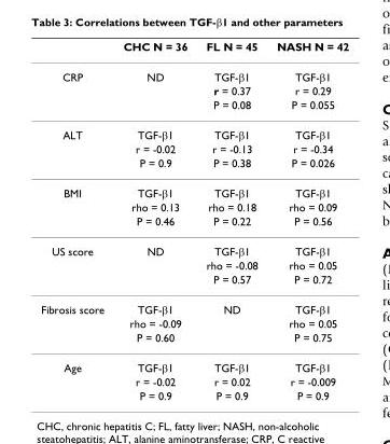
<table><thead><tr><td></td><td>CHC N = 36</td><td>FL N = 45</td><td>NASH N = 42</td></tr></thead><tbody><tr><td rowspan="3">CRP</td><td>ND</td><td>TGF-β1</td><td>TGF-β1</td></tr><tr><td></td><td>r = 0.37</td><td>r = 0.29</td></tr><tr><td></td><td>P = 0.08</td><td>P = 0.055</td></tr><tr><td rowspan="3">ALT</td><td>TGF-β1</td><td>TGF-β1</td><td>TGF-β1</td></tr><tr><td>r = -0.02</td><td>r = -0.13</td><td>r = -0.34</td></tr><tr><td>P = 0.9</td><td>P = 0.38</td><td>P = 0.026</td></tr><tr><td rowspan="3">BMI</td><td>TGF-β1</td><td>TGF-β1</td><td>TGF-β1</td></tr><tr><td>rho = 0.13</td><td>rho = 0.18</td><td>rho = 0.09</td></tr><tr><td>P = 0.46</td><td>P = 0.22</td><td>P = 0.56</td></tr><tr><td rowspan="3">US score</td><td>ND</td><td>TGF-β1</td><td>TGF-β1</td></tr><tr><td></td><td>rho = -0.08</td><td>rho = 0.05</td></tr><tr><td></td><td>P = 0.57</td><td>P = 0.72</td></tr><tr><td rowspan="3">Fibrosis score</td><td>TGF-β1</td><td>ND</td><td>TGF-β1</td></tr><tr><td>rho = -0.09</td><td></td><td>rho = 0.05</td></tr><tr><td>P = 0.60</td><td></td><td>P = 0.75</td></tr><tr><td rowspan="3">Age</td><td>TGF-β1</td><td>TGF-β1</td><td>TGF-β1</td></tr><tr><td>r = -0.02</td><td>r = 0.02</td><td>r = -0.009</td></tr><tr><td>P = 0.9</td><td>P = 0.9</td><td>P = 0.9</td></tr></tbody></table>